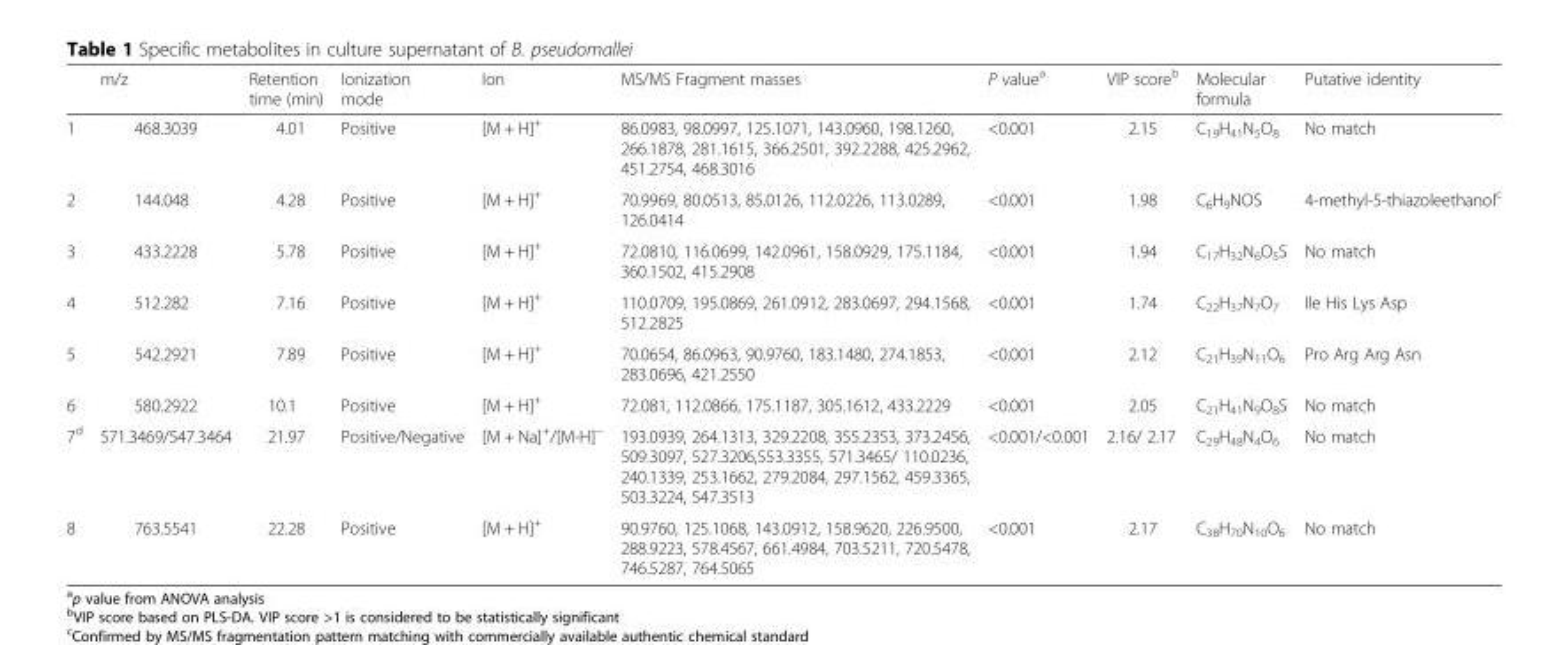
<table><thead><tr><td></td><td>m/z</td><td>Retention time (min)</td><td>Ionization mode</td><td>Ion</td><td>MS/MS Fragment masses</td><td>P value<sup>a</sup></td><td>VIP score<sup>b</sup></td><td>Molecular formula</td><td>Putative identity</td></tr></thead><tbody><tr><td>1</td><td>468.3039</td><td>4.01</td><td>Positive</td><td>[M + H]<sup>+</sup></td><td>86.0983, 98.0997, 125.1071, 143.0960, 198.1260, 266.1878, 281.1615, 366.2501, 392.2288, 425.2962, 451.2754, 468.3016</td><td>&lt;0.001</td><td>2.15</td><td>C<sub>19</sub>H<sub>41</sub>N<sub>5</sub>O<sub>8</sub></td><td>No match</td></tr><tr><td>2</td><td>144.048</td><td>4.28</td><td>Positive</td><td>[M + H]<sup>+</sup></td><td>70.9969, 80.0513, 85.0126, 112.0226, 113.0289, 126.0414</td><td>&lt;0.001</td><td>1.98</td><td>C<sub>6</sub>H<sub>9</sub>NOS</td><td>4-methyl-5-thiazoleethanol<sup>c</sup></td></tr><tr><td>3</td><td>433.2228</td><td>5.78</td><td>Positive</td><td>[M + H]<sup>+</sup></td><td>72.0810, 116.0699, 142.0961, 158.0929, 175.1184, 360.1502, 415.2908</td><td>&lt;0.001</td><td>1.94</td><td>C<sub>17</sub>H<sub>32</sub>N<sub>6</sub>O<sub>5</sub>S</td><td>No match</td></tr><tr><td>4</td><td>512.282</td><td>7.16</td><td>Positive</td><td>[M + H]<sup>+</sup></td><td>110.0709, 195.0869, 261.0912, 283.0697, 294.1568, 512.2825</td><td>&lt;0.001</td><td>1.74</td><td>C<sub>22</sub>H<sub>37</sub>N<sub>7</sub>O<sub>7</sub></td><td>Ile His Lys Asp</td></tr><tr><td>5</td><td>542.2921</td><td>7.89</td><td>Positive</td><td>[M + H]<sup>+</sup></td><td>70.0654, 86.0963, 90.9760, 183.1480, 274.1853, 283.0696, 421.2550</td><td>&lt;0.001</td><td>2.12</td><td>C<sub>21</sub>H<sub>39</sub>N<sub>11</sub>O<sub>6</sub></td><td>Pro Arg Arg Asn</td></tr><tr><td>6</td><td>580.2922</td><td>10.1</td><td>Positive</td><td>[M + H]<sup>+</sup></td><td>72.081, 112.0866, 175.1187, 305.1612, 433.2229</td><td>&lt;0.001</td><td>2.05</td><td>C<sub>21</sub>H<sub>41</sub>N<sub>9</sub>O<sub>8</sub>S</td><td>No match</td></tr><tr><td>7<sup>d</sup></td><td>571.3469/547.3464</td><td>21.97</td><td>Positive/Negative</td><td>[M + Na]<sup>+</sup>/[M-H]<sup>−</sup></td><td>193.0939, 264.1313, 329.2208, 355.2353, 373.2456, 509.3097, 527.3206,553.3355, 571.3465/ 110.0236, 240.1339, 253.1662, 279.2084, 297.1562, 459.3365, 503.3224, 547.3513</td><td>&lt;0.001/&lt;0.001</td><td>2.16/ 2.17</td><td>C<sub>29</sub>H<sub>48</sub>N<sub>4</sub>O<sub>6</sub></td><td>No match</td></tr><tr><td>8</td><td>763.5541</td><td>22.28</td><td>Positive</td><td>[M + H]<sup>+</sup></td><td>90.9760, 125.1068, 143.0912, 158.9620, 226.9500, 288.9223, 578.4567, 661.4984, 703.5211, 720.5478, 746.5287, 764.5065</td><td>&lt;0.001</td><td>2.17</td><td>C<sub>38</sub>H<sub>70</sub>N<sub>10</sub>O<sub>6</sub></td><td>No match</td></tr></tbody></table>